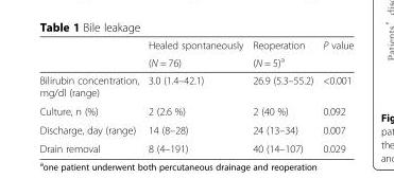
<table><thead><tr><td rowspan="2"></td><td rowspan="2">Healed spontaneously (N = 76)</td><td rowspan="2">Reoperation (N = 5)<sup>a</sup></td><td rowspan="2">P value</td></tr><tr></tr></thead><tbody><tr><td>Bilirubin concentration, mg/dl (range)</td><td>3.0 (1.4–42.1)</td><td>26.9 (5.3–55.2)</td><td>&lt;0.001</td></tr><tr><td>Culture, n (%)</td><td>2 (2.6 %)</td><td>2 (40 %)</td><td>0.092</td></tr><tr><td>Discharge, day (range)</td><td>14 (8–28)</td><td>24 (13–34)</td><td>0.007</td></tr><tr><td>Drain removal</td><td>8 (4–191)</td><td>40 (14–107)</td><td>0.029</td></tr></tbody></table>